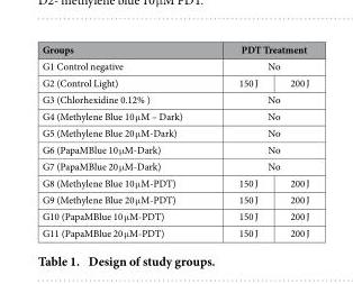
<table><thead><tr><td rowspan="3">Groups G1 Control negative G2 (Control Light)</td><td rowspan="2" colspan="2">PDT Treatment No</td></tr><tr></tr><tr><td>150 J</td><td>200 J</td></tr></thead><tbody><tr><td>G3 (Chlorhexidine 0.12% )</td><td colspan="2">No</td></tr><tr><td>G4 (Methylene Blue 10 μ M – Dark)</td><td colspan="2">No</td></tr><tr><td>G5 (Methylene Blue 20 μ M-Dark)</td><td colspan="2">No</td></tr><tr><td>G6 (PapaMBlue 10 μ M-Dark)</td><td colspan="2">No</td></tr><tr><td>G7 (PapaMBlue 20 μ M-Dark)</td><td colspan="2">No</td></tr><tr><td>G8 (Methylene Blue 10 μ M-PDT)</td><td>150 J</td><td>200 J</td></tr><tr><td>G9 (Methylene Blue 20 μ M-PDT)</td><td>150 J</td><td>200 J</td></tr><tr><td>G10 (PapaMBlue 10 μ M-PDT)</td><td>150 J</td><td>200 J</td></tr><tr><td>G11 (PapaMBlue 20 μ M-PDT)</td><td>150 J</td><td>200 J</td></tr></tbody></table>